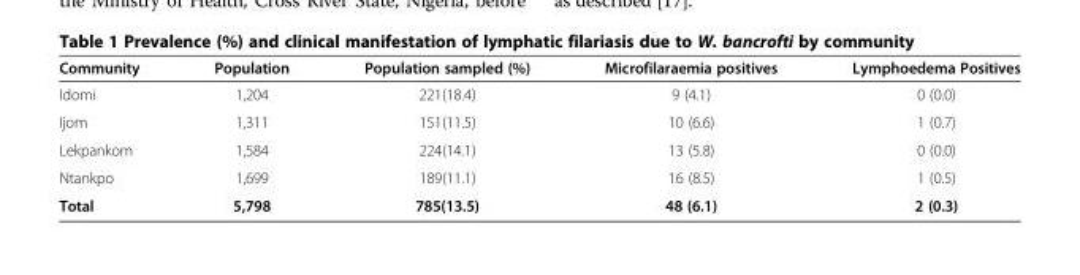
<table><thead><tr><td>Community</td><td>Population</td><td>Population sampled (%)</td><td>Microfilaraemia positives</td><td>Lymphoedema Positives</td></tr></thead><tbody><tr><td>Idomi</td><td>1,204</td><td>221(18.4)</td><td>9 (4.1)</td><td>0 (0.0)</td></tr><tr><td>Ijom</td><td>1,311</td><td>151(11.5)</td><td>10 (6.6)</td><td>1 (0.7)</td></tr><tr><td>Lekpankom</td><td>1,584</td><td>224(14.1)</td><td>13 (5.8)</td><td>0 (0.0)</td></tr><tr><td>Ntankpo</td><td>1,699</td><td>189(11.1)</td><td>16 (8.5)</td><td>1 (0.5)</td></tr><tr><td>Total</td><td>5,798</td><td>785(13.5)</td><td>48 (6.1)</td><td>2 (0.3)</td></tr></tbody></table>